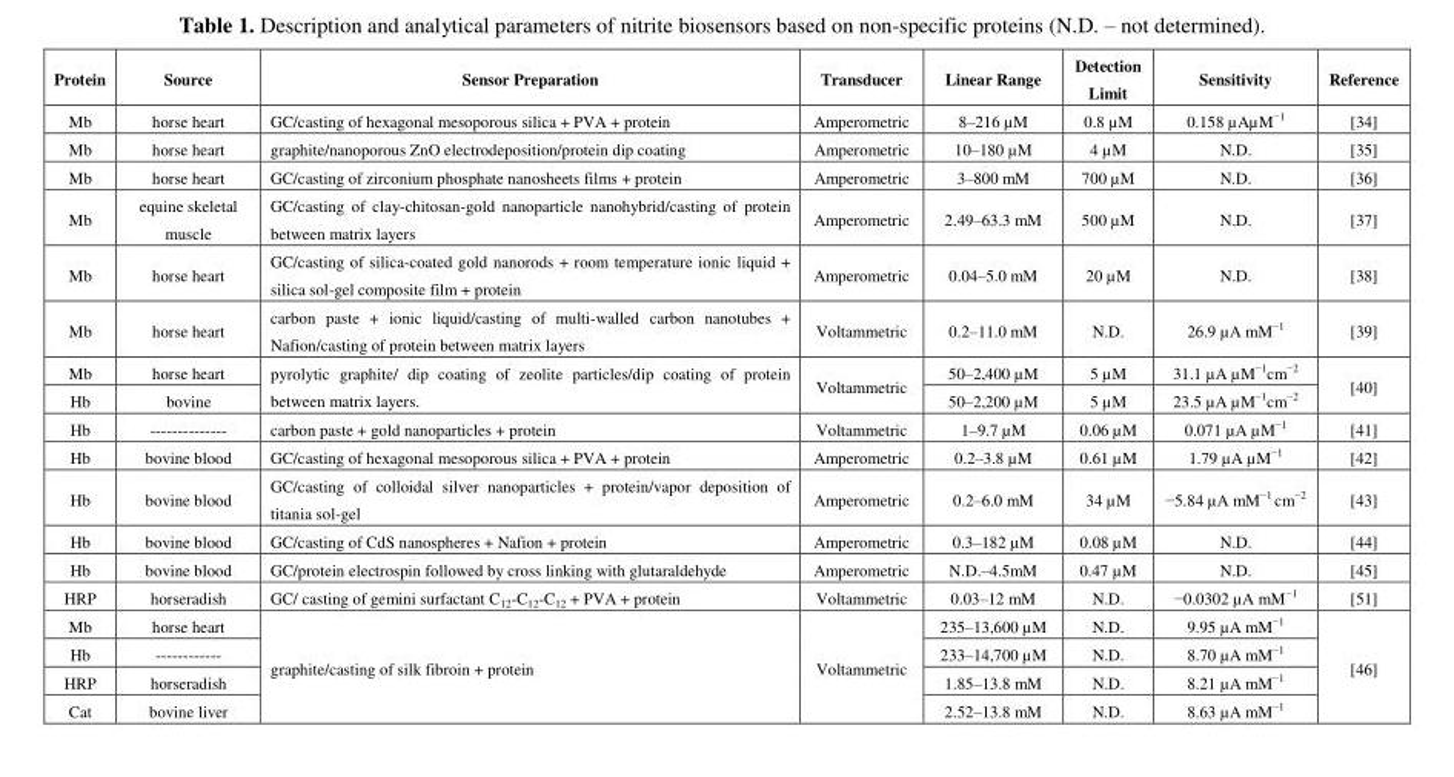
<table><thead><tr><td>Protein</td><td>Source</td><td>Sensor Preparation</td><td>Transducer</td><td>Linear Range</td><td>Detection Limit</td><td>Sensitivity</td><td>Reference</td></tr></thead><tbody><tr><td>Mb</td><td>horse heart</td><td>GC/casting of hexagonal mesoporous silica + PVA + protein</td><td>Amperometric</td><td>8–216 µM</td><td>0.8 µM</td><td>0.158 µAµM<sup>−1</sup></td><td>[34]</td></tr><tr><td>Mb</td><td>horse heart</td><td>graphite/nanoporous ZnO electrodeposition/protein dip coating</td><td>Amperometric</td><td>10–180 µM</td><td>4 µM</td><td>N.D.</td><td>[35]</td></tr><tr><td>Mb</td><td>horse heart</td><td>GC/casting of zirconium phosphate nanosheets films + protein</td><td>Amperometric</td><td>3–800 mM</td><td>700 µM</td><td>N.D.</td><td>[36]</td></tr><tr><td>Mb</td><td>equine skeletal muscle</td><td>GC/casting of clay-chitosan-gold nanoparticle nanohybrid/casting of protein between matrix layers</td><td>Amperometric</td><td>2.49–63.3 mM</td><td>500 µM</td><td>N.D.</td><td>[37]</td></tr><tr><td>Mb</td><td>horse heart</td><td>GC/casting of silica-coated gold nanorods + room temperature ionic liquid + silica sol-gel composite film + protein</td><td>Amperometric</td><td>0.04–5.0 mM</td><td>20 µM</td><td>N.D.</td><td>[38]</td></tr><tr><td>Mb</td><td>horse heart</td><td>carbon paste + ionic liquid/casting of multi-walled carbon nanotubes + Nafion/casting of protein between matrix layers</td><td>Voltammetric</td><td>0.2–11.0 mM</td><td>N.D.</td><td>26.9 µA mM<sup>−1</sup></td><td>[39]</td></tr><tr><td>Mb</td><td>horse heart</td><td rowspan="2">pyrolytic graphite/ dip coating of zeolite particles/dip coating of protein between matrix layers.</td><td rowspan="2">Voltammetric</td><td>50–2,400 µM</td><td>5 µM</td><td>31.1 µA µM<sup>−1</sup>cm<sup>−2</sup></td><td rowspan="2">[40]</td></tr><tr><td>Hb</td><td>bovine</td><td>50–2,200 µM</td><td>5 µM</td><td>23.5 µA µM<sup>−1</sup>cm<sup>−2</sup></td></tr><tr><td>Hb</td><td>--------------</td><td>carbon paste + gold nanoparticles + protein</td><td>Voltammetric</td><td>1–9.7 µM</td><td>0.06 µM</td><td>0.071 µA µM<sup>−1</sup></td><td>[41]</td></tr><tr><td>Hb</td><td>bovine blood</td><td>GC/casting of hexagonal mesoporous silica + PVA + protein</td><td>Amperometric</td><td>0.2–3.8 µM</td><td>0.61 µM</td><td>1.79 µA µM<sup>−1</sup></td><td>[42]</td></tr><tr><td>Hb</td><td>bovine blood</td><td>GC/casting of colloidal silver nanoparticles + protein/vapor deposition of titania sol-gel</td><td>Amperometric</td><td>0.2–6.0 mM</td><td>34 µM</td><td>−5.84 µA mM<sup>−1</sup> cm<sup>−2</sup></td><td>[43]</td></tr><tr><td>Hb</td><td>bovine blood</td><td>GC/casting of CdS nanospheres + Nafion + protein</td><td>Amperometric</td><td>0.3–182 µM</td><td>0.08 µM</td><td>N.D.</td><td>[44]</td></tr><tr><td>Hb</td><td>bovine blood</td><td>GC/protein electrospin followed by cross linking with glutaraldehyde</td><td>Amperometric</td><td>N.D.–4.5mM</td><td>0.47 µM</td><td>N.D.</td><td>[45]</td></tr><tr><td>HRP</td><td>horseradish</td><td>GC/ casting of gemini surfactant C<sub>12</sub>-C<sub>12</sub>-C<sub>12</sub> + PVA + protein</td><td>Voltammetric</td><td>0.03–12 mM</td><td>N.D.</td><td>−0.0302 µA mM<sup>−1</sup></td><td>[51]</td></tr><tr><td>Mb</td><td>horse heart</td><td rowspan="4">graphite/casting of silk fibroin + protein</td><td rowspan="4">Voltammetric</td><td>235–13,600 µM</td><td>N.D.</td><td>9.95 µA mM<sup>−1</sup></td><td rowspan="4">[46]</td></tr><tr><td>Hb</td><td>------------</td><td>233–14,700 µM</td><td>N.D.</td><td>8.70 µA mM<sup>−1</sup></td></tr><tr><td>HRP</td><td>horseradish</td><td>1.85–13.8 mM</td><td>N.D.</td><td>8.21 µA mM<sup>−1</sup></td></tr><tr><td>Cat</td><td>bovine liver</td><td>2.52–13.8 mM</td><td>N.D.</td><td>8.63 µA mM<sup>−1</sup></td></tr></tbody></table>